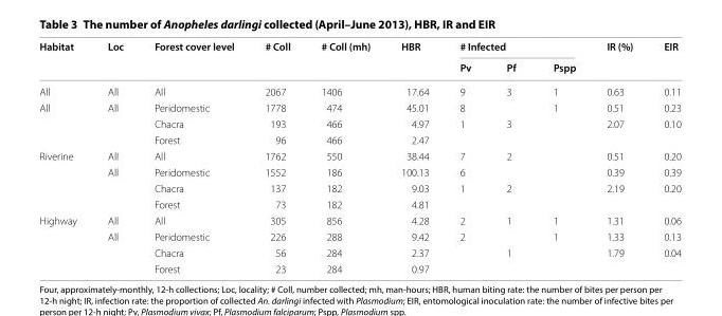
<table><thead><tr><td rowspan="2">Habitat</td><td rowspan="2">Loc</td><td rowspan="2">Forest cover level</td><td rowspan="2"># Coll</td><td rowspan="2"># Coll (mh)</td><td rowspan="2">HBR</td><td colspan="3"># Infected</td><td rowspan="2">IR (%)</td><td rowspan="2">EIR</td></tr><tr><td>Pv</td><td>Pf</td><td>Pspp</td></tr></thead><tbody><tr><td>All</td><td>All</td><td>All</td><td>2067</td><td>1406</td><td>17.64</td><td>9</td><td>3</td><td>1</td><td>0.63</td><td>0.11</td></tr><tr><td rowspan="3">All</td><td rowspan="3">All</td><td>Peridomestic</td><td>1778</td><td>474</td><td>45.01</td><td>8</td><td></td><td>1</td><td>0.51</td><td>0.23</td></tr><tr><td>Chacra</td><td>193</td><td>466</td><td>4.97</td><td>1</td><td>3</td><td></td><td>2.07</td><td>0.10</td></tr><tr><td>Forest</td><td>96</td><td>466</td><td>2.47</td><td></td><td></td><td></td><td></td><td></td></tr><tr><td rowspan="4">Riverine</td><td>All</td><td>All</td><td>1762</td><td>550</td><td>38.44</td><td>7</td><td>2</td><td></td><td>0.51</td><td>0.20</td></tr><tr><td rowspan="3">All</td><td>Peridomestic</td><td>1552</td><td>186</td><td>100.13</td><td>6</td><td></td><td></td><td>0.39</td><td>0.39</td></tr><tr><td>Chacra</td><td>137</td><td>182</td><td>9.03</td><td>1</td><td>2</td><td></td><td>2.19</td><td>0.20</td></tr><tr><td>Forest</td><td>73</td><td>182</td><td>4.81</td><td></td><td></td><td></td><td></td><td></td></tr><tr><td rowspan="4">Highway</td><td>All</td><td>All</td><td>305</td><td>856</td><td>4.28</td><td>2</td><td>1</td><td>1</td><td>1.31</td><td>0.06</td></tr><tr><td rowspan="3">All</td><td>Peridomestic</td><td>226</td><td>288</td><td>9.42</td><td>2</td><td></td><td>1</td><td>1.33</td><td>0.13</td></tr><tr><td>Chacra</td><td>56</td><td>284</td><td>2.37</td><td></td><td>1</td><td></td><td>1.79</td><td>0.04</td></tr><tr><td>Forest</td><td>23</td><td>284</td><td>0.97</td><td></td><td></td><td></td><td></td><td></td></tr></tbody></table>